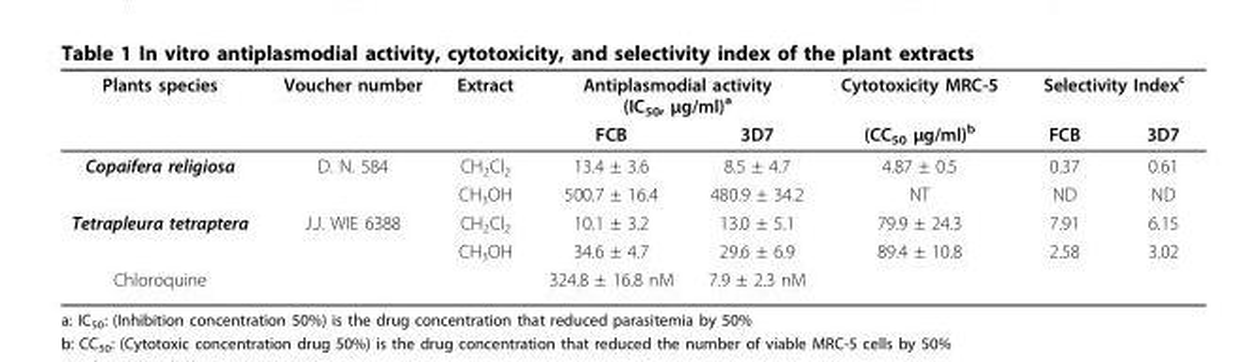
<table><thead><tr><td rowspan="2">Plants species</td><td rowspan="2">Voucher number</td><td rowspan="2">Extract</td><td colspan="2">Antiplasmodial activity (IC<sub>50</sub>, μg/ml)<sup>a</sup></td><td rowspan="2">Cytotoxicity MRC-5 (CC<sub>50</sub> μg/ml)<sup>b</sup></td><td colspan="2">Selectivity Index<sup>c</sup></td></tr><tr><td>FCB</td><td>3D7</td><td>FCB</td><td>3D7</td></tr></thead><tbody><tr><td rowspan="2">Copaifera religiosa</td><td>D. N. 584</td><td>CH<sub>2</sub>Cl<sub>2</sub></td><td>13.4 ± 3.6</td><td>8.5 ± 4.7</td><td>4.87 ± 0.5</td><td>0.37</td><td>0.61</td></tr><tr><td></td><td>CH<sub>3</sub>OH</td><td>500.7 ± 16.4</td><td>480.9 ± 34.2</td><td>NT</td><td>ND</td><td>ND</td></tr><tr><td rowspan="2">Tetrapleura tetraptera</td><td>J.J. WIE 6388</td><td>CH<sub>2</sub>Cl<sub>2</sub></td><td>10.1 ± 3.2</td><td>13.0 ± 5.1</td><td>79.9 ± 24.3</td><td>7.91</td><td>6.15</td></tr><tr><td></td><td>CH<sub>3</sub>OH</td><td>34.6 ± 4.7</td><td>29.6 ± 6.9</td><td>89.4 ± 10.8</td><td>2.58</td><td>3.02</td></tr><tr><td>Chloroquine</td><td></td><td></td><td>324.8 ± 16.8 nM</td><td>7.9 ± 2.3 nM</td><td></td><td></td><td></td></tr></tbody></table>